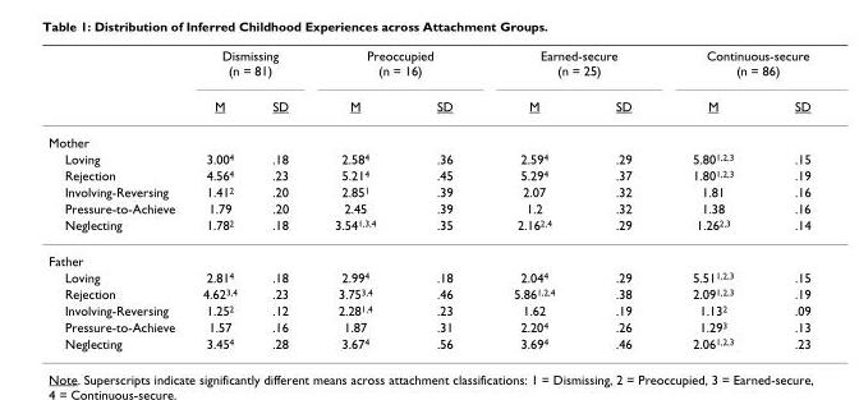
<table><thead><tr><td rowspan="2"></td><td colspan="2">Dismissing (n = 81)</td><td colspan="2">Preoccupied (n = 16)</td><td colspan="2">Earned-secure (n = 25)</td><td colspan="2">Continuous-secure (n = 86)</td></tr><tr><td>M</td><td>SD</td><td>M</td><td>SD</td><td>M</td><td>SD</td><td>M</td><td>SD</td></tr></thead><tbody><tr><td colspan="9">Mother</td></tr><tr><td>Loving</td><td>3.00<sup>4</sup></td><td>.18</td><td>2.58<sup>4</sup></td><td>.36</td><td>2.59<sup>4</sup></td><td>.29</td><td>5.80<sup>1,2,3</sup></td><td>.15</td></tr><tr><td>Rejection</td><td>4.56<sup>4</sup></td><td>.23</td><td>5.21<sup>4</sup></td><td>.45</td><td>5.29<sup>4</sup></td><td>.37</td><td>1.80<sup>1,2,3</sup></td><td>.19</td></tr><tr><td>Involving-Reversing</td><td>1.41<sup>2</sup></td><td>.20</td><td>2.85<sup>1</sup></td><td>.39</td><td>2.07</td><td>.32</td><td>1.81</td><td>.16</td></tr><tr><td>Pressure-to-Achieve</td><td>1.79</td><td>.20</td><td>2.45</td><td>.39</td><td>1.2</td><td>.32</td><td>1.38</td><td>.16</td></tr><tr><td>Neglecting</td><td>1.78<sup>2</sup></td><td>.18</td><td>3.54<sup>1,3,4</sup></td><td>.35</td><td>2.16<sup>2,4</sup></td><td>.29</td><td>1.26<sup>2,3</sup></td><td>.14</td></tr><tr><td colspan="9">Father</td></tr><tr><td>Loving</td><td>2.81<sup>4</sup></td><td>.18</td><td>2.99<sup>4</sup></td><td>.18</td><td>2.04<sup>4</sup></td><td>.29</td><td>5.51<sup>1,2,3</sup></td><td>.15</td></tr><tr><td>Rejection</td><td>4.62<sup>3,4</sup></td><td>.23</td><td>3.75<sup>3,4</sup></td><td>.46</td><td>5.86<sup>1,2,4</sup></td><td>.38</td><td>2.09<sup>1,2,3</sup></td><td>.19</td></tr><tr><td>Involving-Reversing</td><td>1.25<sup>2</sup></td><td>.12</td><td>2.28<sup>1,4</sup></td><td>.23</td><td>1.62</td><td>.19</td><td>1.13<sup>2</sup></td><td>.09</td></tr><tr><td>Pressure-to-Achieve</td><td>1.57</td><td>.16</td><td>1.87</td><td>.31</td><td>2.20<sup>4</sup></td><td>.26</td><td>1.29<sup>3</sup></td><td>.13</td></tr><tr><td>Neglecting</td><td>3.45<sup>4</sup></td><td>.28</td><td>3.67<sup>4</sup></td><td>.56</td><td>3.69<sup>4</sup></td><td>.46</td><td>2.06<sup>1,2,3</sup></td><td>.23</td></tr></tbody></table>